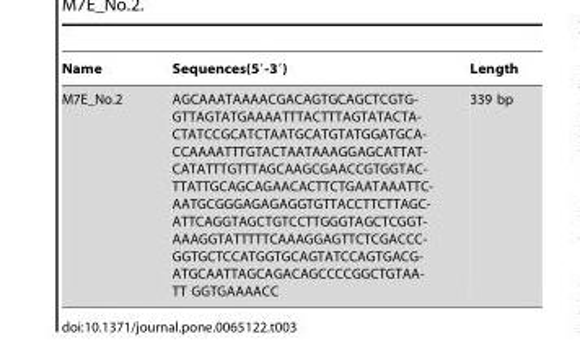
<table><thead><tr><td>Name</td><td>Sequences(5′-3′)</td><td>Length</td></tr></thead><tbody><tr><td>M7E_No.2</td><td>AGCAAATAAAACGACAGTGCAGCTCGTG- GTTAGTATGAAAATTTACTTTAGTATACTA- CTATCCGCATCTAATGCATGTATGGATGCA- CCAAAATTTGTACTAATAAAGGAGCATTAT- CATATTTGTTTAGCAAGCGAACCGTGGTAC- TTATTGCAGCAGAACACTTCTGAATAAATTC- AATGCGGGAGAGAGGTGTTACCTTCTTAGC- ATTCAGGTAGCTGTCCTTGGGTAGCTCGGT- AAAGGTATTTTTCAAAGGAGTTCTCGACCC- GGTGCTCCATGGTGCAGTATCCAGTGACG- ATGCAATTAGCAGACAGCCCCGGCTGTAA- TT GGTGAAAACC</td><td>339 bp</td></tr></tbody></table>